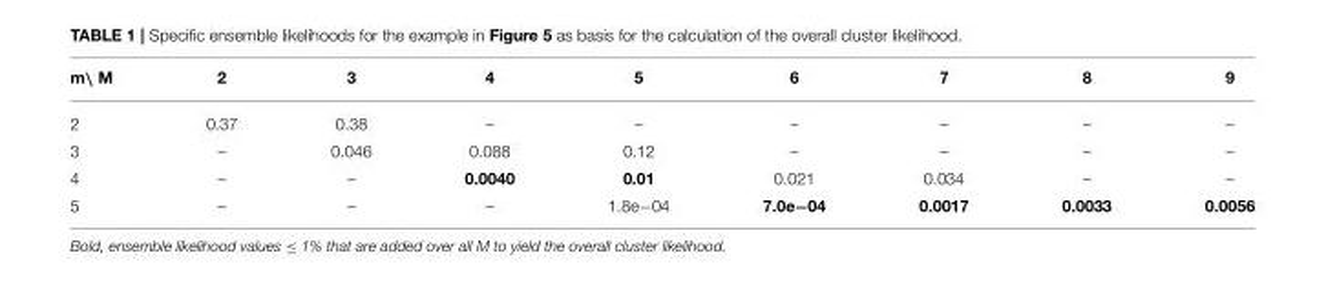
<table><thead><tr><td>m\ M</td><td>2</td><td>3</td><td>4</td><td>5</td><td>6</td><td>7</td><td>8</td><td>9</td></tr></thead><tbody><tr><td>2</td><td>0.37</td><td>0.38</td><td>–</td><td>–</td><td>–</td><td>–</td><td>–</td><td>–</td></tr><tr><td>3</td><td>–</td><td>0.046</td><td>0.088</td><td>0.12</td><td>–</td><td>–</td><td>–</td><td>–</td></tr><tr><td>4</td><td>–</td><td>–</td><td>0.0040</td><td>0.01</td><td>0.021</td><td>0.034</td><td>–</td><td>–</td></tr><tr><td>5</td><td>–</td><td>–</td><td>–</td><td>1.8e−04</td><td>7.0e−04</td><td>0.0017</td><td>0.0033</td><td>0.0056</td></tr></tbody></table>